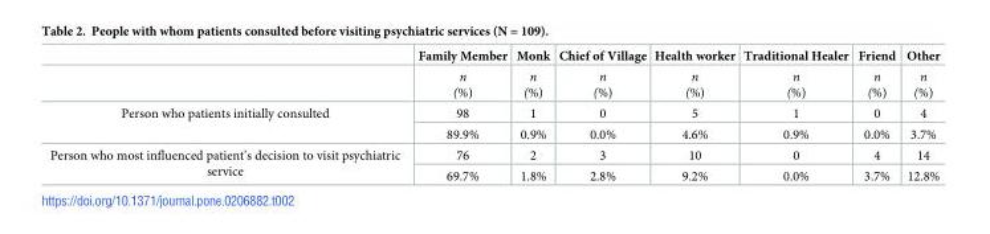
<table><thead><tr><td></td><td>Family Member</td><td>Monk</td><td>Chief of Village</td><td>Health worker</td><td>Traditional Healer</td><td>Friend</td><td>Other</td></tr></thead><tbody><tr><td></td><td>n (%)</td><td>n (%)</td><td>n (%)</td><td>n (%)</td><td>n (%)</td><td>n (%)</td><td>n (%)</td></tr><tr><td rowspan="2">Person who patients initially consulted</td><td>98</td><td>1</td><td>0</td><td>5</td><td>1</td><td>0</td><td>4</td></tr><tr><td>89.9%</td><td>0.9%</td><td>0.0%</td><td>4.6%</td><td>0.9%</td><td>0.0%</td><td>3.7%</td></tr><tr><td rowspan="2">Person who most influenced patient’s decision to visit psychiatric service</td><td>76</td><td>2</td><td>3</td><td>10</td><td>0</td><td>4</td><td>14</td></tr><tr><td>69.7%</td><td>1.8%</td><td>2.8%</td><td>9.2%</td><td>0.0%</td><td>3.7%</td><td>12.8%</td></tr></tbody></table>